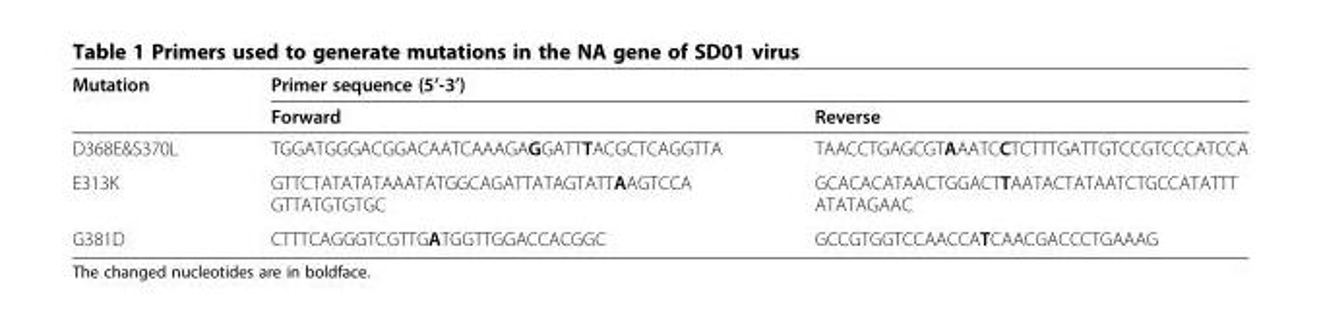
<table><thead><tr><td rowspan="2">Mutation</td><td colspan="2">Primer sequence (5’-3’)</td></tr><tr><td>Forward</td><td>Reverse</td></tr></thead><tbody><tr><td>D368E&amp;S370L</td><td>TGGATGGGACGGACAATCAAAGAGGATTTACGCTCAGGTTA</td><td>TAACCTGAGCGTAAATCCTCTTTGATTGTCCGTCCCATCCA</td></tr><tr><td>E313K</td><td>GTTCTATATATAAATATGGCAGATTATAGTATTAAGTCCA GTTATGTGTGC</td><td>GCACACATAACTGGACTTAATACTATAATCTGCCATATTT ATATAGAAC</td></tr><tr><td>G381D</td><td>CTTTCAGGGTCGTTGATGGTTGGACCACGGC</td><td>GCCGTGGTCCAACCATCAACGACCCTGAAAG</td></tr></tbody></table>